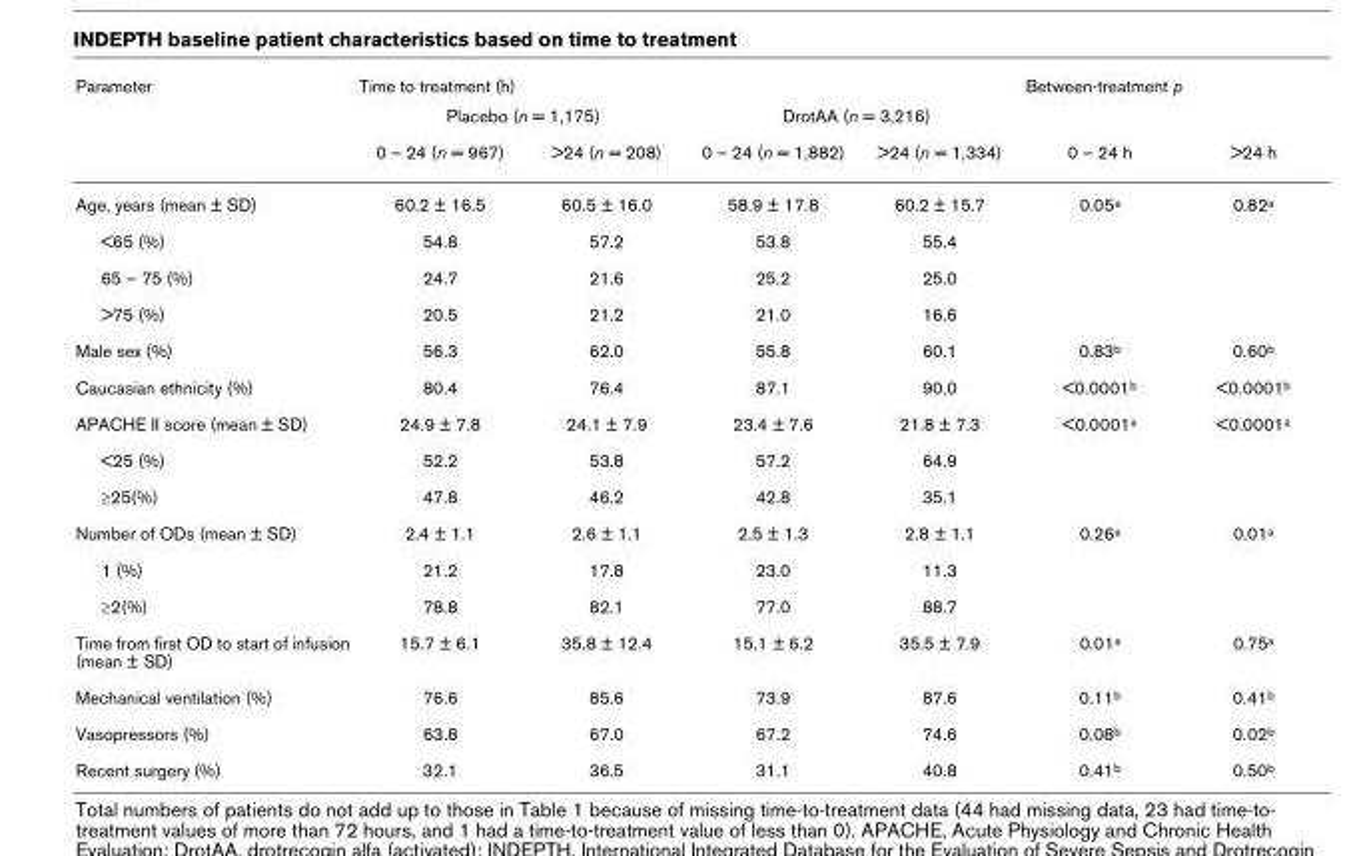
<table><thead><tr><td rowspan="3">Parameter</td><td colspan="4">Time to treatment (h)</td><td colspan="2">Between-treatment p</td></tr><tr><td colspan="2">Placebo (n = 1,175)</td><td colspan="2">DrotAA (n = 3,216)</td><td rowspan="2">0 – 24 h</td><td rowspan="2">&gt;24 h</td></tr><tr><td>0 – 24 (n = 967)</td><td>&gt;24 (n = 208)</td><td>0 – 24 (n = 1,882)</td><td>&gt;24 (n = 1,334)</td></tr></thead><tbody><tr><td>Age, years (mean ± SD)</td><td>60.2 ± 16.5</td><td>60.5 ± 16.0</td><td>58.9 ± 17.8</td><td>60.2 ± 15.7</td><td>0.05a</td><td>0.82a</td></tr><tr><td>&lt;65 (%)</td><td>54.8</td><td>57.2</td><td>53.8</td><td>55.4</td><td></td><td></td></tr><tr><td>65 – 75 (%)</td><td>24.7</td><td>21.6</td><td>25.2</td><td>25.0</td><td></td><td></td></tr><tr><td>&gt;75 (%)</td><td>20.5</td><td>21.2</td><td>21.0</td><td>16.6</td><td></td><td></td></tr><tr><td>Male sex (%)</td><td>56.3</td><td>62.0</td><td>55.8</td><td>60.1</td><td>0.83b</td><td>0.60b</td></tr><tr><td>Caucasian ethnicity (%)</td><td>80.4</td><td>76.4</td><td>87.1</td><td>90.0</td><td>&lt;0.0001b</td><td>&lt;0.0001b</td></tr><tr><td>APACHE II score (mean ± SD)</td><td>24.9 ± 7.8</td><td>24.1 ± 7.9</td><td>23.4 ± 7.6</td><td>21.8 ± 7.3</td><td>&lt;0.0001a</td><td>&lt;0.0001a</td></tr><tr><td>&lt;25 (%)</td><td>52.2</td><td>53.8</td><td>57.2</td><td>64.9</td><td></td><td></td></tr><tr><td>≥25(%)</td><td>47.8</td><td>46.2</td><td>42.8</td><td>35.1</td><td></td><td></td></tr><tr><td>Number of ODs (mean ± SD)</td><td>2.4 ± 1.1</td><td>2.6 ± 1.1</td><td>2.5 ± 1.3</td><td>2.8 ± 1.1</td><td>0.26a</td><td>0.01a</td></tr><tr><td>1 (%)</td><td>21.2</td><td>17.8</td><td>23.0</td><td>11.3</td><td></td><td></td></tr><tr><td>≥2(%)</td><td>78.8</td><td>82.1</td><td>77.0</td><td>88.7</td><td></td><td></td></tr><tr><td>Time from first OD to start of infusion (mean ± SD)</td><td>15.7 ± 6.1</td><td>35.8 ± 12.4</td><td>15.1 ± 6.2</td><td>35.5 ± 7.9</td><td>0.01a</td><td>0.75a</td></tr><tr><td>Mechanical ventilation (%)</td><td>76.6</td><td>85.6</td><td>73.9</td><td>87.6</td><td>0.11b</td><td>0.41b</td></tr><tr><td>Vasopressors (%)</td><td>63.8</td><td>67.0</td><td>67.2</td><td>74.6</td><td>0.08b</td><td>0.02b</td></tr><tr><td>Recent surgery (%)</td><td>32.1</td><td>36.5</td><td>31.1</td><td>40.8</td><td>0.41b</td><td>0.50b</td></tr></tbody></table>